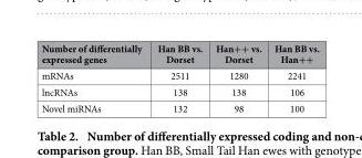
<table><thead><tr><td>Number of differentially expressed genes</td><td>Han BB vs. Dorset</td><td>Han++ vs. Dorset</td><td>Han BB vs. Han++</td></tr></thead><tbody><tr><td>mRNAs</td><td>2511</td><td>1280</td><td>2241</td></tr><tr><td>lncRNAs</td><td>138</td><td>138</td><td>106</td></tr><tr><td>Novel miRNAs</td><td>132</td><td>98</td><td>100</td></tr></tbody></table>